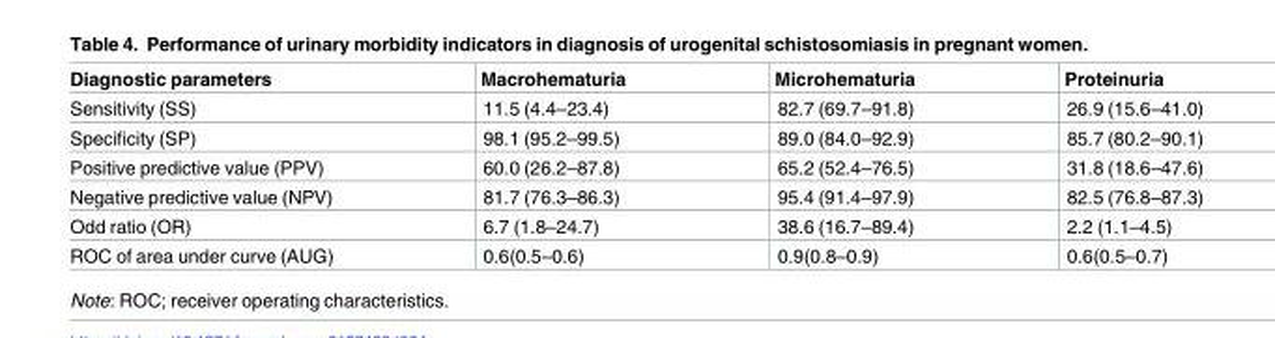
<table><thead><tr><td>Diagnostic parameters</td><td>Macrohematuria</td><td>Microhematuria</td><td>Proteinuria</td></tr></thead><tbody><tr><td>Sensitivity (SS)</td><td>11.5 (4.4–23.4)</td><td>82.7 (69.7–91.8)</td><td>26.9 (15.6–41.0)</td></tr><tr><td>Specificity (SP)</td><td>98.1 (95.2–99.5)</td><td>89.0 (84.0–92.9)</td><td>85.7 (80.2–90.1)</td></tr><tr><td>Positive predictive value (PPV)</td><td>60.0 (26.2–87.8)</td><td>65.2 (52.4–76.5)</td><td>31.8 (18.6–47.6)</td></tr><tr><td>Negative predictive value (NPV)</td><td>81.7 (76.3–86.3)</td><td>95.4 (91.4–97.9)</td><td>82.5 (76.8–87.3)</td></tr><tr><td>Odd ratio (OR)</td><td>6.7 (1.8–24.7)</td><td>38.6 (16.7–89.4)</td><td>2.2 (1.1–4.5)</td></tr><tr><td>ROC of area under curve (AUG)</td><td>0.6(0.5–0.6)</td><td>0.9(0.8–0.9)</td><td>0.6(0.5–0.7)</td></tr></tbody></table>